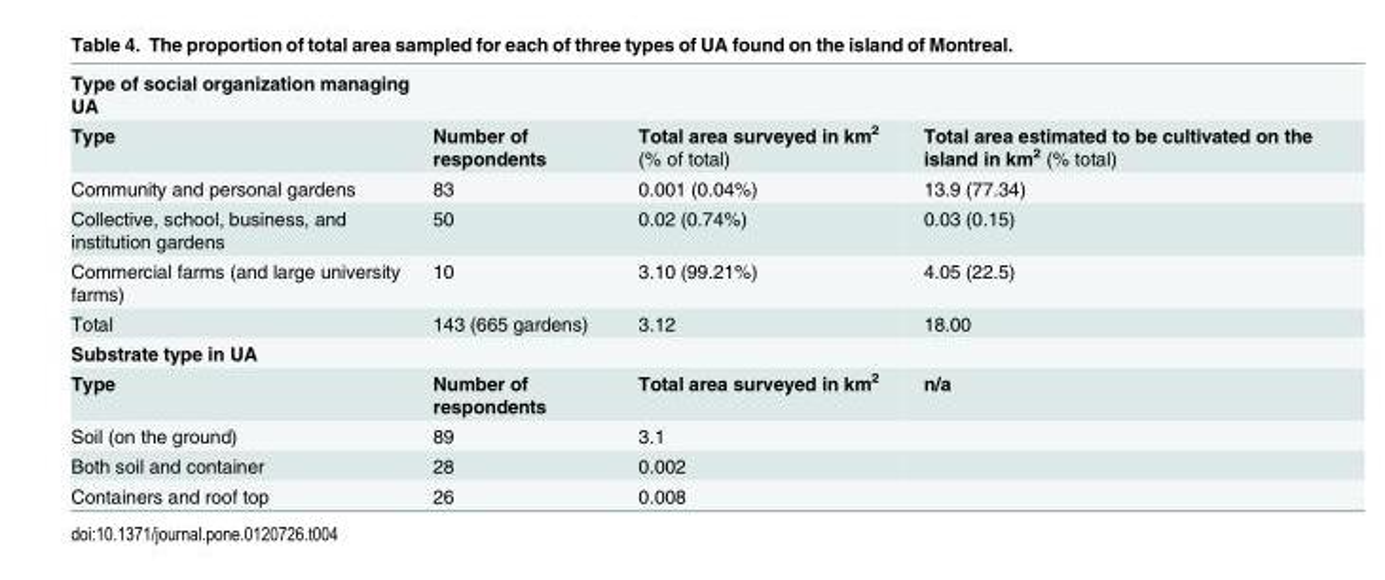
<table><tbody><tr><td colspan="4">Type of social organization managing UA</td></tr><tr><td>Type</td><td>Number of respondents</td><td>Total area surveyed in km<sup>2</sup> (% of total)</td><td>Total area estimated to be cultivated on the island in km<sup>2</sup> (% total)</td></tr><tr><td>Community and personal gardens</td><td>83</td><td>0.001 (0.04%)</td><td>13.9 (77.34)</td></tr><tr><td>Collective, school, business, and institution gardens</td><td>50</td><td>0.02 (0.74%)</td><td>0.03 (0.15)</td></tr><tr><td>Commercial farms (and large university farms)</td><td>10</td><td>3.10 (99.21%)</td><td>4.05 (22.5)</td></tr><tr><td>Total</td><td>143 (665 gardens)</td><td>3.12</td><td>18.00</td></tr><tr><td colspan="4">Substrate type in UA</td></tr><tr><td>Type</td><td>Number of respondents</td><td>Total area surveyed in km<sup>2</sup></td><td>n/a</td></tr><tr><td>Soil (on the ground)</td><td>89</td><td>3.1</td><td></td></tr><tr><td>Both soil and container</td><td>28</td><td>0.002</td><td></td></tr><tr><td>Containers and roof top</td><td>26</td><td>0.008</td><td></td></tr></tbody></table>